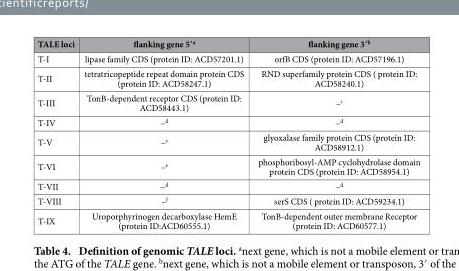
<table><thead><tr><td>TALE loci</td><td>flanking gene 5′<sup>a</sup></td><td>flanking gene 3′<sup>b</sup></td></tr></thead><tbody><tr><td>T-I</td><td>lipase family CDS (protein ID: ACD57201.1)</td><td>orfB CDS (protein ID: ACD57196.1)</td></tr><tr><td>T-II</td><td>tetratricopeptide repeat domain protein CDS (protein ID: ACD58247.1)</td><td>RND superfamily protein CDS ( protein ID: ACD58240.1)</td></tr><tr><td>T-III</td><td>TonB-dependent receptor CDS (protein ID: ACD58443.1)</td><td>–c</td></tr><tr><td>T-IV</td><td>–d</td><td>–d</td></tr><tr><td>T-V</td><td>–e</td><td>glyoxalase family protein CDS (protein ID: ACD58912.1)</td></tr><tr><td>T-VI</td><td>–e</td><td>phosphoribosyl-AMP cyclohydrolase domain protein CDS (protein ID: ACD58954.1)</td></tr><tr><td>T-VII</td><td>–d</td><td>–d</td></tr><tr><td>T-VIII</td><td>–f</td><td>serS CDS ( protein ID: ACD59234.1)</td></tr><tr><td>T-IX</td><td>Uroporphyrinogen decarboxylase HemE (protein ID:ACD60555.1)</td><td>TonB-dependent outer membrane Receptor (protein ID: ACD60577.1)</td></tr></tbody></table>